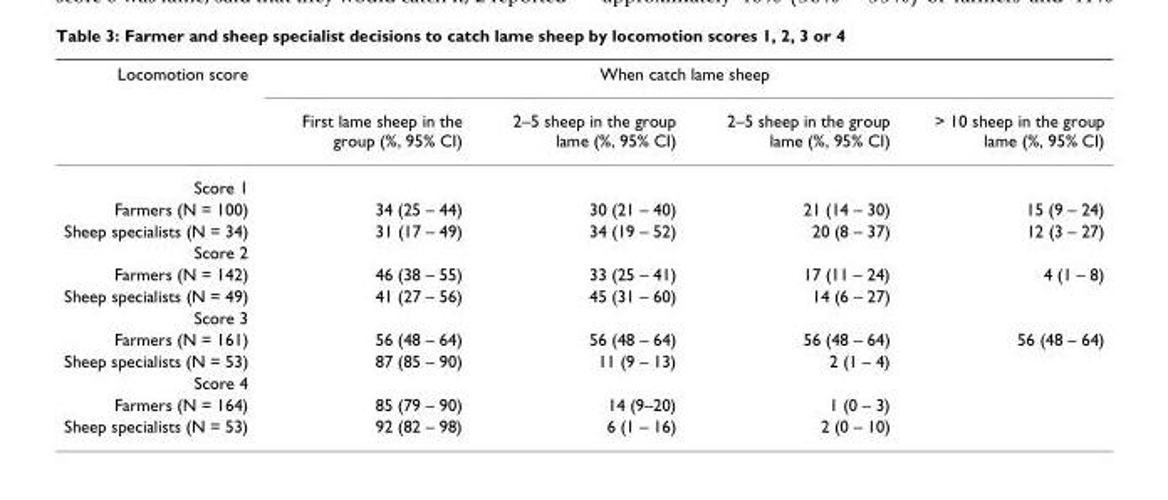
<table><thead><tr><td rowspan="2">Locomotion score</td><td colspan="4">When catch lame sheep</td></tr><tr><td>First lame sheep in the group (%, 95% CI)</td><td>2–5 sheep in the group lame (%, 95% CI)</td><td>2–5 sheep in the group lame (%, 95% CI)</td><td>&gt; 10 sheep in the group lame (%, 95% CI)</td></tr></thead><tbody><tr><td colspan="5">Score 1</td></tr><tr><td>Farmers (N = 100)</td><td>34 (25 – 44)</td><td>30 (21 – 40)</td><td>21 (14 – 30)</td><td>15 (9 – 24)</td></tr><tr><td>Sheep specialists (N = 34)</td><td>31 (17 – 49)</td><td>34 (19 – 52)</td><td>20 (8 – 37)</td><td>12 (3 – 27)</td></tr><tr><td colspan="5">Score 2</td></tr><tr><td>Farmers (N = 142)</td><td>46 (38 – 55)</td><td>33 (25 – 41)</td><td>17 (11 – 24)</td><td>4 (1 – 8)</td></tr><tr><td>Sheep specialists (N = 49)</td><td>41 (27 – 56)</td><td>45 (31 – 60)</td><td>14 (6 – 27)</td><td></td></tr><tr><td colspan="5">Score 3</td></tr><tr><td>Farmers (N = 161)</td><td>56 (48 – 64)</td><td>56 (48 – 64)</td><td>56 (48 – 64)</td><td>56 (48 – 64)</td></tr><tr><td>Sheep specialists (N = 53)</td><td>87 (85 – 90)</td><td>11 (9 – 13)</td><td>2 (1 – 4)</td><td></td></tr><tr><td colspan="5">Score 4</td></tr><tr><td>Farmers (N = 164)</td><td>85 (79 – 90)</td><td>14 (9–20)</td><td>1 (0 – 3)</td><td></td></tr><tr><td>Sheep specialists (N = 53)</td><td>92 (82 – 98)</td><td>6 (1 – 16)</td><td>2 (0 – 10)</td><td></td></tr></tbody></table>